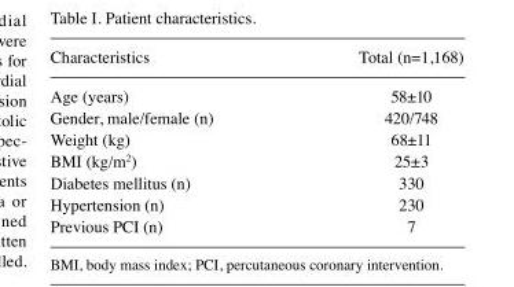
<table><thead><tr><td>Characteristics</td><td>Total (n=1,168)</td></tr></thead><tbody><tr><td>Age (years)</td><td>58±10</td></tr><tr><td>Gender, male/female (n)</td><td>420/748</td></tr><tr><td>Weight (kg)</td><td>68±11</td></tr><tr><td>BMI (kg/m<sup>2</sup>)</td><td>25±3</td></tr><tr><td>Diabetes mellitus (n)</td><td>330</td></tr><tr><td>Hypertension (n)</td><td>230</td></tr><tr><td>Previous PCI (n)</td><td>7</td></tr></tbody></table>